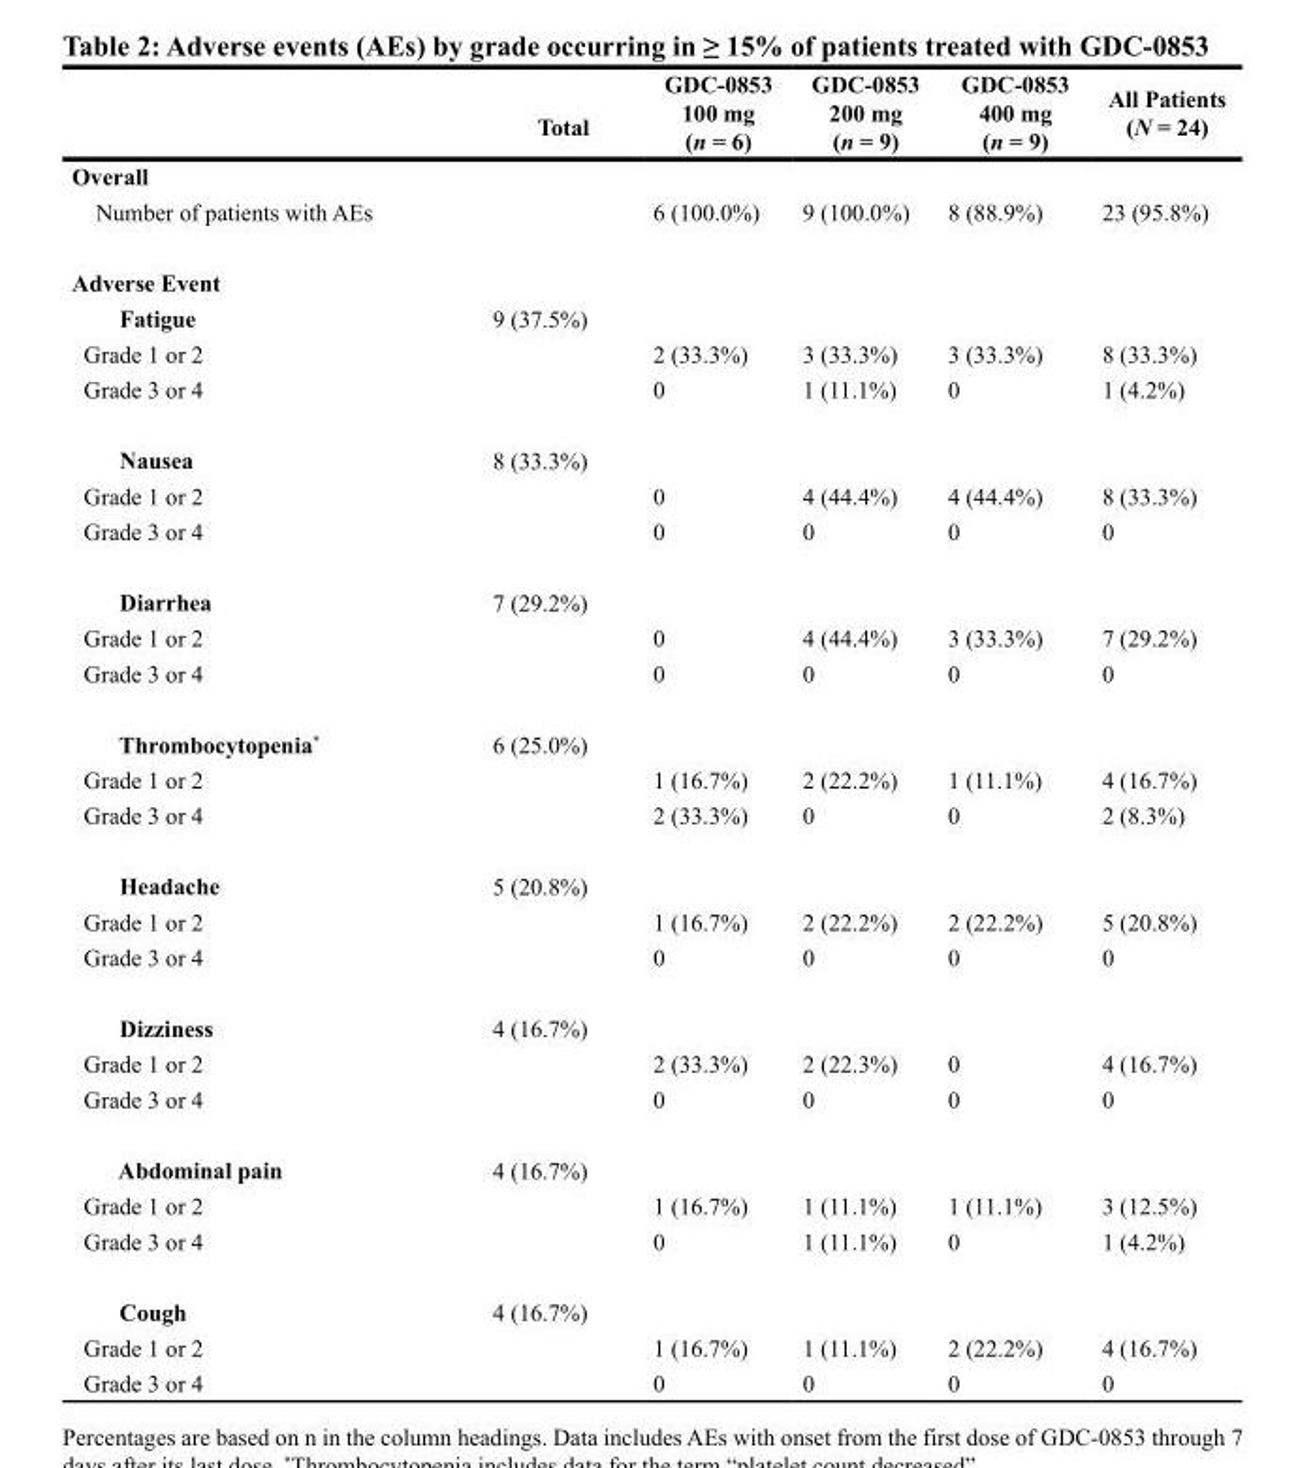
<table><thead><tr><td></td><td>Total</td><td>GDC-0853 100 mg (n = 6)</td><td>GDC-0853 200 mg (n = 9)</td><td>GDC-0853 400 mg (n = 9)</td><td>All Patients (N = 24)</td></tr></thead><tbody><tr><td colspan="6">Overall</td></tr><tr><td>Number of patients with AEs</td><td></td><td>6 (100.0%)</td><td>9 (100.0%)</td><td>8 (88.9%)</td><td>23 (95.8%)</td></tr><tr><td colspan="6">Adverse Event</td></tr><tr><td>Fatigue</td><td>9 (37.5%)</td><td></td><td></td><td></td><td></td></tr><tr><td>Grade 1 or 2</td><td></td><td>2 (33.3%)</td><td>3 (33.3%)</td><td>3 (33.3%)</td><td>8 (33.3%)</td></tr><tr><td>Grade 3 or 4</td><td></td><td>0</td><td>1 (11.1%)</td><td>0</td><td>1 (4.2%)</td></tr><tr><td>Nausea</td><td>8 (33.3%)</td><td></td><td></td><td></td><td></td></tr><tr><td>Grade 1 or 2</td><td></td><td>0</td><td>4 (44.4%)</td><td>4 (44.4%)</td><td>8 (33.3%)</td></tr><tr><td>Grade 3 or 4</td><td></td><td>0</td><td>0</td><td>0</td><td>0</td></tr><tr><td>Diarrhea</td><td>7 (29.2%)</td><td></td><td></td><td></td><td></td></tr><tr><td>Grade 1 or 2</td><td></td><td>0</td><td>4 (44.4%)</td><td>3 (33.3%)</td><td>7 (29.2%)</td></tr><tr><td>Grade 3 or 4</td><td></td><td>0</td><td>0</td><td>0</td><td>0</td></tr><tr><td>Thrombocytopenia*</td><td>6 (25.0%)</td><td></td><td></td><td></td><td></td></tr><tr><td>Grade 1 or 2</td><td></td><td>1 (16.7%)</td><td>2 (22.2%)</td><td>1 (11.1%)</td><td>4 (16.7%)</td></tr><tr><td>Grade 3 or 4</td><td></td><td>2 (33.3%)</td><td>0</td><td>0</td><td>2 (8.3%)</td></tr><tr><td>Headache</td><td>5 (20.8%)</td><td></td><td></td><td></td><td></td></tr><tr><td>Grade 1 or 2</td><td></td><td>1 (16.7%)</td><td>2 (22.2%)</td><td>2 (22.2%)</td><td>5 (20.8%)</td></tr><tr><td>Grade 3 or 4</td><td></td><td>0</td><td>0</td><td>0</td><td>0</td></tr><tr><td>Dizziness</td><td>4 (16.7%)</td><td></td><td></td><td></td><td></td></tr><tr><td>Grade 1 or 2</td><td></td><td>2 (33.3%)</td><td>2 (22.3%)</td><td>0</td><td>4 (16.7%)</td></tr><tr><td>Grade 3 or 4</td><td></td><td>0</td><td>0</td><td>0</td><td>0</td></tr><tr><td>Abdominal pain</td><td>4 (16.7%)</td><td></td><td></td><td></td><td></td></tr><tr><td>Grade 1 or 2</td><td></td><td>1 (16.7%)</td><td>1 (11.1%)</td><td>1 (11.1%)</td><td>3 (12.5%)</td></tr><tr><td>Grade 3 or 4</td><td></td><td>0</td><td>1 (11.1%)</td><td>0</td><td>1 (4.2%)</td></tr><tr><td>Cough</td><td>4 (16.7%)</td><td></td><td></td><td></td><td></td></tr><tr><td>Grade 1 or 2</td><td></td><td>1 (16.7%)</td><td>1 (11.1%)</td><td>2 (22.2%)</td><td>4 (16.7%)</td></tr><tr><td>Grade 3 or 4</td><td></td><td>0</td><td>0</td><td>0</td><td>0</td></tr></tbody></table>